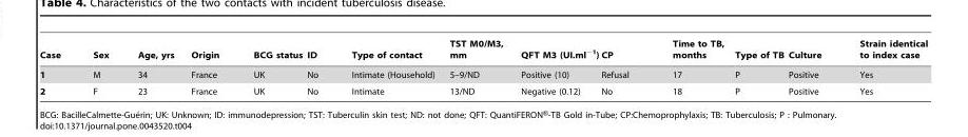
<table><thead><tr><td>Case</td><td>Sex</td><td>Age, yrs</td><td>Origin</td><td>BCG status</td><td>ID</td><td>Type of contact</td><td>TST M0/M3, mm</td><td>QFT M3 (UI.ml<sup>−1</sup>)</td><td>CP</td><td>Time to TB, months</td><td>Type of TB</td><td>Culture</td><td>Strain identical to index case</td></tr></thead><tbody><tr><td>1</td><td>M</td><td>34</td><td>France</td><td>UK</td><td>No</td><td>Intimate (Household)</td><td>5–9/ND</td><td>Positive (10)</td><td>Refusal</td><td>17</td><td>P</td><td>Positive</td><td>Yes</td></tr><tr><td>2</td><td>F</td><td>23</td><td>France</td><td>UK</td><td>No</td><td>Intimate</td><td>13/ND</td><td>Negative (0.12)</td><td>No</td><td>18</td><td>P</td><td>Positive</td><td>Yes</td></tr></tbody></table>